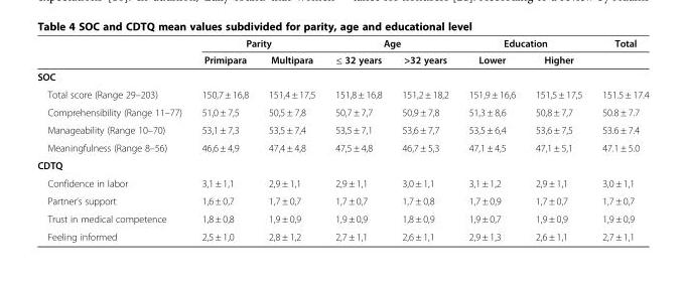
<table><thead><tr><td rowspan="2"></td><td colspan="2">Parity</td><td colspan="2">Age</td><td colspan="2">Education</td><td rowspan="2">Total</td></tr><tr><td>Primipara</td><td>Multipara</td><td>≤ 32 years</td><td>&gt;32 years</td><td>Lower</td><td>Higher</td></tr></thead><tbody><tr><td colspan="8">SOC</td></tr><tr><td>Total score (Range 29–203)</td><td>150,7 ± 16,8</td><td>151,4 ± 17,5</td><td>151,8 ± 16,8</td><td>151,2 ± 18,2</td><td>151,9 ± 16,6</td><td>151,5 ± 17,5</td><td>151.5 ± 17.4</td></tr><tr><td>Comprehensibility (Range 11–77)</td><td>51,0 ± 7,5</td><td>50,5 ± 7,8</td><td>50,7 ± 7,7</td><td>50,9 ± 7,8</td><td>51,3 ± 8,6</td><td>50,8 ± 7,7</td><td>50.8 ± 7.7</td></tr><tr><td>Manageability (Range 10–70)</td><td>53,1 ± 7,3</td><td>53,5 ± 7,4</td><td>53,5 ± 7,1</td><td>53,6 ± 7,7</td><td>53,5 ± 6,4</td><td>53,6 ± 7,5</td><td>53.6 ± 7.4</td></tr><tr><td>Meaningfulness (Range 8–56)</td><td>46,6 ± 4,9</td><td>47,4 ± 4,8</td><td>47,5 ± 4,8</td><td>46,7 ± 5,3</td><td>47,1 ± 4,5</td><td>47,1 ± 5,1</td><td>47.1 ± 5.0</td></tr><tr><td colspan="8">CDTQ</td></tr><tr><td>Confidence in labor</td><td>3,1 ± 1,1</td><td>2,9 ± 1,1</td><td>2,9 ± 1,1</td><td>3,0 ± 1,1</td><td>3,1 ± 1,2</td><td>2,9 ± 1,1</td><td>3,0 ± 1,1</td></tr><tr><td>Partner’s support</td><td>1,6 ± 0,7</td><td>1,7 ± 0,7</td><td>1,7 ± 0,7</td><td>1,7 ± 0,8</td><td>1,7 ± 0,9</td><td>1,7 ± 0,7</td><td>1,7 ± 0,7</td></tr><tr><td>Trust in medical competence</td><td>1,8 ± 0,8</td><td>1,9 ± 0,9</td><td>1,9 ± 0,9</td><td>1,8 ± 0,9</td><td>1,9 ± 0,7</td><td>1,9 ± 0,9</td><td>1,9 ± 0,9</td></tr><tr><td>Feeling informed</td><td>2,5 ± 1,0</td><td>2,8 ± 1,2</td><td>2,7 ± 1,1</td><td>2,6 ± 1,1</td><td>2,9 ± 1,3</td><td>2,6 ± 1,1</td><td>2,7 ± 1,1</td></tr></tbody></table>